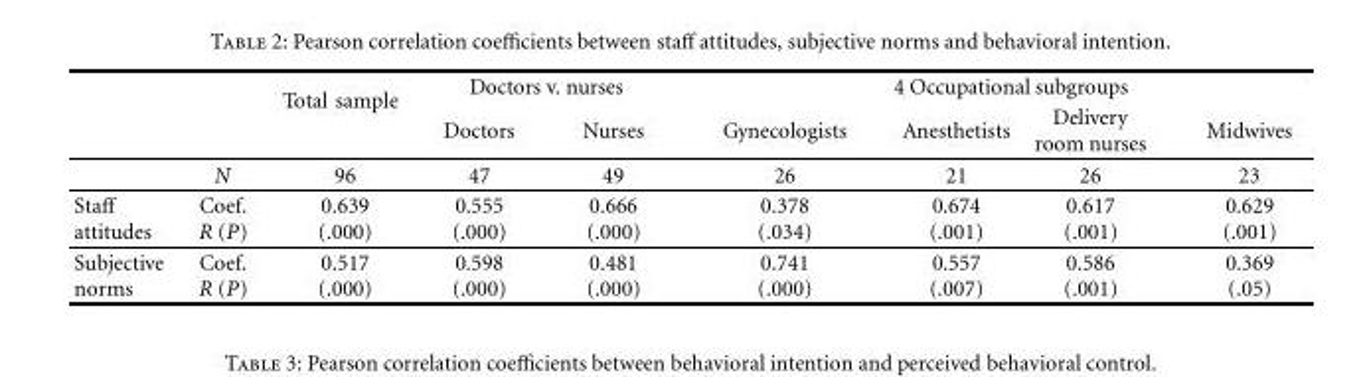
<table><thead><tr><td rowspan="2"></td><td rowspan="2"></td><td rowspan="2">Total sample</td><td colspan="2">Doctors v. nurses</td><td colspan="4">4 Occupational subgroups</td></tr><tr><td>Doctors</td><td>Nurses</td><td>Gynecologists</td><td>Anesthetists</td><td>Delivery room nurses</td><td>Midwives</td></tr></thead><tbody><tr><td></td><td>N</td><td>96</td><td>47</td><td>49</td><td>26</td><td>21</td><td>26</td><td>23</td></tr><tr><td>Staff attitudes</td><td>Coef. R (P)</td><td>0.639 (.000)</td><td>0.555 (.000)</td><td>0.666 (.000)</td><td>0.378 (.034)</td><td>0.674 (.001)</td><td>0.617 (.001)</td><td>0.629 (.001)</td></tr><tr><td>Subjective norms</td><td>Coef. R (P)</td><td>0.517 (.000)</td><td>0.598 (.000)</td><td>0.481 (.000)</td><td>0.741 (.000)</td><td>0.557 (.007)</td><td>0.586 (.001)</td><td>0.369 (.05)</td></tr></tbody></table>